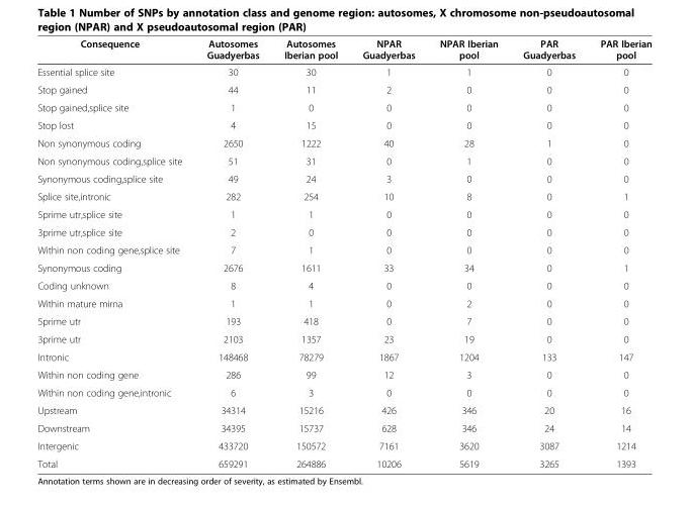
<table><thead><tr><td>Consequence</td><td>Autosomes Guadyerbas</td><td>Autosomes Iberian pool</td><td>NPAR Guadyerbas</td><td>NPAR Iberian pool</td><td>PAR Guadyerbas</td><td>PAR Iberian pool</td></tr></thead><tbody><tr><td>Essential splice site</td><td>30</td><td>30</td><td>1</td><td>1</td><td>0</td><td>0</td></tr><tr><td>Stop gained</td><td>44</td><td>11</td><td>2</td><td>0</td><td>0</td><td>0</td></tr><tr><td>Stop gained,splice site</td><td>1</td><td>0</td><td>0</td><td>0</td><td>0</td><td>0</td></tr><tr><td>Stop lost</td><td>4</td><td>15</td><td>0</td><td>0</td><td>0</td><td>0</td></tr><tr><td>Non synonymous coding</td><td>2650</td><td>1222</td><td>40</td><td>28</td><td>1</td><td>0</td></tr><tr><td>Non synonymous coding,splice site</td><td>51</td><td>31</td><td>0</td><td>1</td><td>0</td><td>0</td></tr><tr><td>Synonymous coding,splice site</td><td>49</td><td>24</td><td>3</td><td>0</td><td>0</td><td>0</td></tr><tr><td>Splice site,intronic</td><td>282</td><td>254</td><td>10</td><td>8</td><td>0</td><td>1</td></tr><tr><td>5prime utr,splice site</td><td>1</td><td>1</td><td>0</td><td>0</td><td>0</td><td>0</td></tr><tr><td>3prime utr,splice site</td><td>2</td><td>0</td><td>0</td><td>0</td><td>0</td><td>0</td></tr><tr><td>Within non coding gene,splice site</td><td>7</td><td>1</td><td>0</td><td>0</td><td>0</td><td>0</td></tr><tr><td>Synonymous coding</td><td>2676</td><td>1611</td><td>33</td><td>34</td><td>0</td><td>1</td></tr><tr><td>Coding unknown</td><td>8</td><td>4</td><td>0</td><td>0</td><td>0</td><td>0</td></tr><tr><td>Within mature mirna</td><td>1</td><td>1</td><td>0</td><td>2</td><td>0</td><td>0</td></tr><tr><td>5prime utr</td><td>193</td><td>418</td><td>0</td><td>7</td><td>0</td><td>0</td></tr><tr><td>3prime utr</td><td>2103</td><td>1357</td><td>23</td><td>19</td><td>0</td><td>0</td></tr><tr><td>Intronic</td><td>148468</td><td>78279</td><td>1867</td><td>1204</td><td>133</td><td>147</td></tr><tr><td>Within non coding gene</td><td>286</td><td>99</td><td>12</td><td>3</td><td>0</td><td>0</td></tr><tr><td>Within non coding gene,intronic</td><td>6</td><td>3</td><td>0</td><td>0</td><td>0</td><td>0</td></tr><tr><td>Upstream</td><td>34314</td><td>15216</td><td>426</td><td>346</td><td>20</td><td>16</td></tr><tr><td>Downstream</td><td>34395</td><td>15737</td><td>628</td><td>346</td><td>24</td><td>14</td></tr><tr><td>Intergenic</td><td>433720</td><td>150572</td><td>7161</td><td>3620</td><td>3087</td><td>1214</td></tr><tr><td>Total</td><td>659291</td><td>264886</td><td>10206</td><td>5619</td><td>3265</td><td>1393</td></tr></tbody></table>